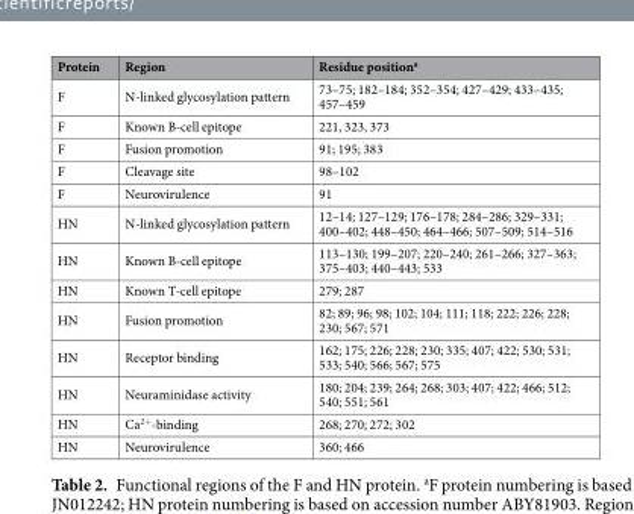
<table><thead><tr><td>Protein</td><td>Region</td><td>Residue position<sup>a</sup></td></tr></thead><tbody><tr><td>F</td><td>N-linked glycosylation pattern</td><td>73–75; 182–184; 352–354; 427–429; 433–435; 457–459</td></tr><tr><td>F</td><td>Known B-cell epitope</td><td>221, 323, 373</td></tr><tr><td>F</td><td>Fusion promotion</td><td>91; 195; 383</td></tr><tr><td>F</td><td>Cleavage site</td><td>98–102</td></tr><tr><td>F</td><td>Neurovirulence</td><td>91</td></tr><tr><td>HN</td><td>N-linked glycosylation pattern</td><td>12–14; 127–129; 176–178; 284–286; 329–331; 400–402; 448–450; 464–466; 507–509; 514–516</td></tr><tr><td>HN</td><td>Known B-cell epitope</td><td>113–130; 199–207; 220–240; 261–266; 327–363; 375–403; 440–443; 533</td></tr><tr><td>HN</td><td>Known T-cell epitope</td><td>279; 287</td></tr><tr><td>HN</td><td>Fusion promotion</td><td>82; 89; 96; 98; 102; 104; 111; 118; 222; 226; 228; 230; 567; 571</td></tr><tr><td>HN</td><td>Receptor binding</td><td>162; 175; 226; 228; 230; 335; 407; 422; 530; 531; 533; 540; 566; 567; 575</td></tr><tr><td>HN</td><td>Neuraminidase activity</td><td>180; 204; 239; 264; 268; 303; 407; 422; 466; 512; 540; 551; 561</td></tr><tr><td>HN</td><td>Ca<sup>2+</sup>-binding</td><td>268; 270; 272; 302</td></tr><tr><td>HN</td><td>Neurovirulence</td><td>360; 466</td></tr></tbody></table>